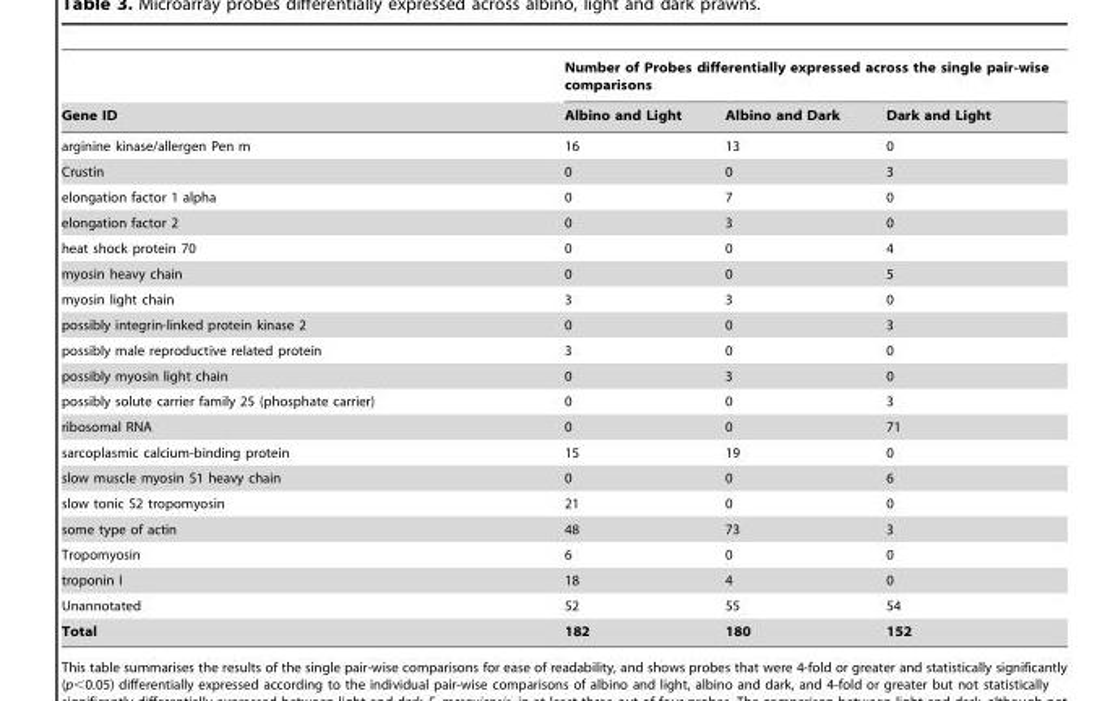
<table><thead><tr><td rowspan="2">Gene ID</td><td colspan="3">Number of Probes differentially expressed across the single pair-wise comparisons</td></tr><tr><td>Albino and Light</td><td>Albino and Dark</td><td>Dark and Light</td></tr></thead><tbody><tr><td>arginine kinase/allergen Pen m</td><td>16</td><td>13</td><td>0</td></tr><tr><td>Crustin</td><td>0</td><td>0</td><td>3</td></tr><tr><td>elongation factor 1 alpha</td><td>0</td><td>7</td><td>0</td></tr><tr><td>elongation factor 2</td><td>0</td><td>3</td><td>0</td></tr><tr><td>heat shock protein 70</td><td>0</td><td>0</td><td>4</td></tr><tr><td>myosin heavy chain</td><td>0</td><td>0</td><td>5</td></tr><tr><td>myosin light chain</td><td>3</td><td>3</td><td>0</td></tr><tr><td>possibly integrin-linked protein kinase 2</td><td>0</td><td>0</td><td>3</td></tr><tr><td>possibly male reproductive related protein</td><td>3</td><td>0</td><td>0</td></tr><tr><td>possibly myosin light chain</td><td>0</td><td>3</td><td>0</td></tr><tr><td>possibly solute carrier family 25 (phosphate carrier)</td><td>0</td><td>0</td><td>3</td></tr><tr><td>ribosomal RNA</td><td>0</td><td>0</td><td>71</td></tr><tr><td>sarcoplasmic calcium-binding protein</td><td>15</td><td>19</td><td>0</td></tr><tr><td>slow muscle myosin S1 heavy chain</td><td>0</td><td>0</td><td>6</td></tr><tr><td>slow tonic S2 tropomyosin</td><td>21</td><td>0</td><td>0</td></tr><tr><td>some type of actin</td><td>48</td><td>73</td><td>3</td></tr><tr><td>Tropomyosin</td><td>6</td><td>0</td><td>0</td></tr><tr><td>troponin I</td><td>18</td><td>4</td><td>0</td></tr><tr><td>Unannotated</td><td>52</td><td>55</td><td>54</td></tr><tr><td>Total</td><td>182</td><td>180</td><td>152</td></tr></tbody></table>